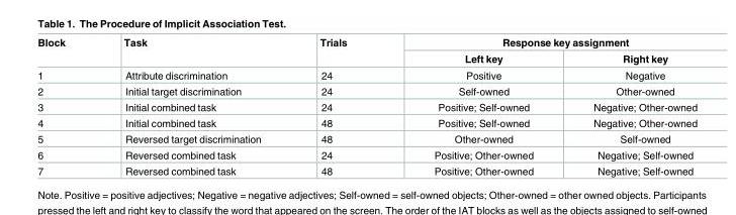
<table><thead><tr><td rowspan="2">Block</td><td rowspan="2">Task</td><td rowspan="2">Trials</td><td colspan="2">Response key assignment</td></tr><tr><td>Left key</td><td>Right key</td></tr></thead><tbody><tr><td>1</td><td>Attribute discrimination</td><td>24</td><td>Positive</td><td>Negative</td></tr><tr><td>2</td><td>Initial target discrimination</td><td>24</td><td>Self-owned</td><td>Other-owned</td></tr><tr><td>3</td><td>Initial combined task</td><td>24</td><td>Positive; Self-owned</td><td>Negative; Other-owned</td></tr><tr><td>4</td><td>Initial combined task</td><td>48</td><td>Positive; Self-owned</td><td>Negative; Other-owned</td></tr><tr><td>5</td><td>Reversed target discrimination</td><td>48</td><td>Other-owned</td><td>Self-owned</td></tr><tr><td>6</td><td>Reversed combined task</td><td>24</td><td>Positive; Other-owned</td><td>Negative; Self-owned</td></tr><tr><td>7</td><td>Reversed combined task</td><td>48</td><td>Positive; Other-owned</td><td>Negative; Self-owned</td></tr></tbody></table>